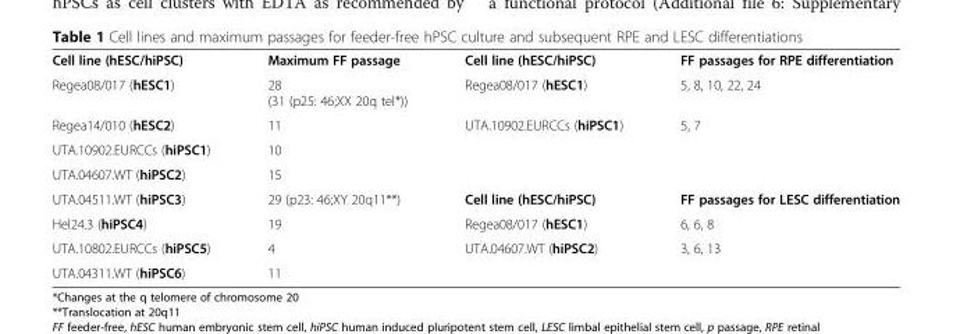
<table><tbody><tr><td>Cell line (hESC/hiPSC)</td><td>Maximum FF passage</td><td>Cell line (hESC/hiPSC)</td><td>FF passages for RPE differentiation</td></tr><tr><td>Regea08/017 (hESC1)</td><td>28 (31 (p25: 46;XX 20q tel*))</td><td>Regea08/017 (hESC1)</td><td>5, 8, 10, 22, 24</td></tr><tr><td>Regea14/010 (hESC2)</td><td>11</td><td>UTA.10902.EURCCs (hiPSC1)</td><td>5, 7</td></tr><tr><td>UTA.10902.EURCCs (hiPSC1)</td><td>10</td><td></td><td></td></tr><tr><td>UTA.04607.WT (hiPSC2)</td><td>15</td><td></td><td></td></tr><tr><td>UTA.04511.WT (hiPSC3)</td><td>29 (p23: 46;XY 20q11**)</td><td>Cell line (hESC/hiPSC)</td><td>FF passages for LESC differentiation</td></tr><tr><td>Hel24.3 (hiPSC4)</td><td>19</td><td>Regea08/017 (hESC1)</td><td>6, 6, 8</td></tr><tr><td>UTA.10802.EURCCs (hiPSC5)</td><td>4</td><td>UTA.04607.WT (hiPSC2)</td><td>3, 6, 13</td></tr><tr><td>UTA.04311.WT (hiPSC6)</td><td>11</td><td></td><td></td></tr></tbody></table>